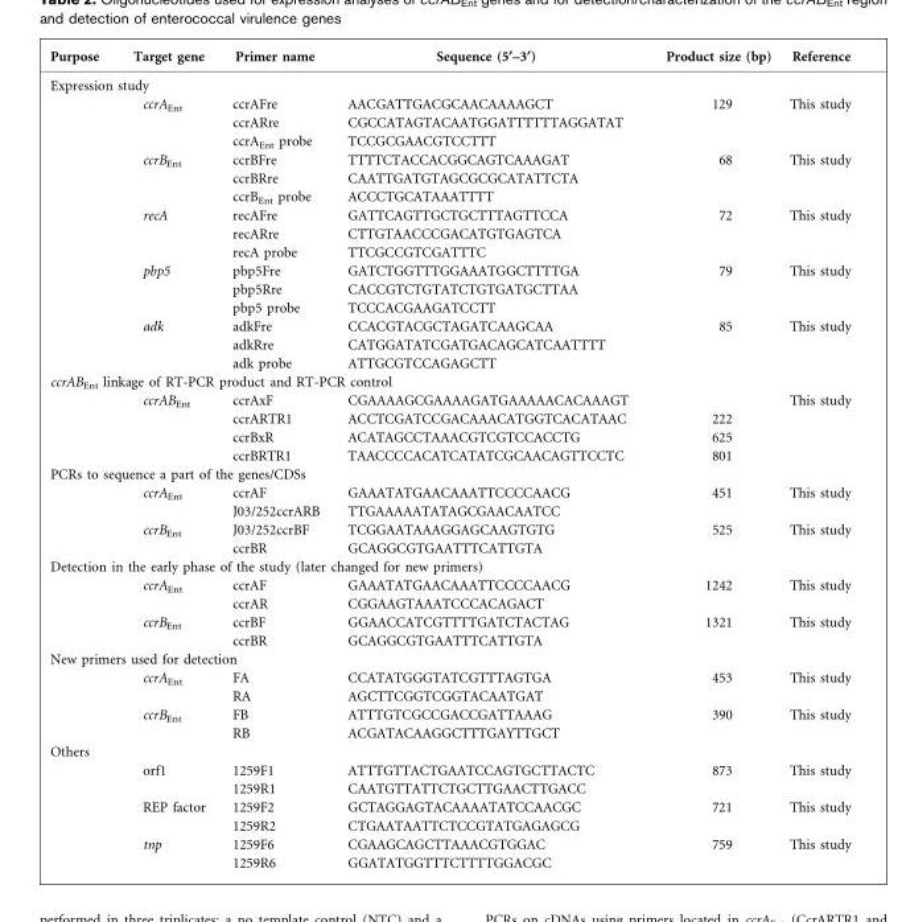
<table><thead><tr><td>Purpose</td><td>Target gene</td><td>Primer name</td><td>Sequence (5§–3§)</td><td>Product size (bp)</td><td>Reference</td></tr></thead><tbody><tr><td colspan="6">Expression study</td></tr><tr><td></td><td>ccrA<sub>Ent</sub></td><td>ccrAFre</td><td>AACGATTGACGCAACAAAAGCT</td><td>129</td><td>This study</td></tr><tr><td></td><td></td><td>ccrARre</td><td>CGCCATAGTACAATGGATTTTTTAGGATAT</td><td></td><td></td></tr><tr><td></td><td></td><td>ccrA<sub>Ent</sub> probe</td><td>TCCGCGAACGTCCTTT</td><td></td><td></td></tr><tr><td></td><td>ccrB<sub>Ent</sub></td><td>ccrBFre</td><td>TTTTCTACCACGGCAGTCAAAGAT</td><td>68</td><td>This study</td></tr><tr><td></td><td></td><td>ccrBRre</td><td>CAATTGATGTAGCGCGCATATTCTA</td><td></td><td></td></tr><tr><td></td><td></td><td>ccrB<sub>Ent</sub> probe</td><td>ACCCTGCATAAATTTT</td><td></td><td></td></tr><tr><td></td><td>recA</td><td>recAFre</td><td>GATTCAGTTGCTGCTTTAGTTCCA</td><td>72</td><td>This study</td></tr><tr><td></td><td></td><td>recARre</td><td>CTTGTAACCCGACATGTGAGTCA</td><td></td><td></td></tr><tr><td></td><td></td><td>recA probe</td><td>TTCGCCGTCGATTTC</td><td></td><td></td></tr><tr><td></td><td>pbp5</td><td>pbp5Fre</td><td>GATCTGGTTTGGAAATGGCTTTTGA</td><td>79</td><td>This study</td></tr><tr><td></td><td></td><td>pbp5Rre</td><td>CACCGTCTGTATCTGTGATGCTTAA</td><td></td><td></td></tr><tr><td></td><td></td><td>pbp5 probe</td><td>TCCCACGAAGATCCTT</td><td></td><td></td></tr><tr><td></td><td>adk</td><td>adkFre</td><td>CCACGTACGCTAGATCAAGCAA</td><td>85</td><td>This study</td></tr><tr><td></td><td></td><td>adkRre</td><td>CATGGATATCGATGACAGCATCAATTTT</td><td></td><td></td></tr><tr><td></td><td></td><td>adk probe</td><td>ATTGCGTCCAGAGCTT</td><td></td><td></td></tr><tr><td colspan="6">ccrAB<sub>Ent</sub> linkage of RT-PCR product and RT-PCR control</td></tr><tr><td></td><td>ccrAB<sub>Ent</sub></td><td>ccrAxF</td><td>CGAAAAGCGAAAAGATGAAAAACACAAAGT</td><td></td><td>This study</td></tr><tr><td></td><td></td><td>ccrARTR1</td><td>ACCTCGATCCGACAAACATGGTCACATAAC</td><td>222</td><td></td></tr><tr><td></td><td></td><td>ccrBxR</td><td>ACATAGCCTAAACGTCGTCCACCTG</td><td>625</td><td></td></tr><tr><td></td><td></td><td>ccrBRTR1</td><td>TAACCCCACATCATATCGCAACAGTTCCTC</td><td>801</td><td></td></tr><tr><td colspan="6">PCRs to sequence a part of the genes/CDSs</td></tr><tr><td></td><td>ccrA<sub>Ent</sub></td><td>ccrAF</td><td>GAAATATGAACAAATTCCCCAACG</td><td>451</td><td>This study</td></tr><tr><td></td><td></td><td>J03/252ccrARB</td><td>TTGAAAAATATAGCGAACAATCC</td><td></td><td></td></tr><tr><td></td><td>ccrB<sub>Ent</sub></td><td>J03/252ccrBF</td><td>TCGGAATAAAGGAGCAAGTGTG</td><td>525</td><td>This study</td></tr><tr><td></td><td></td><td>ccrBR</td><td>GCAGGCGTGAATTTCATTGTA</td><td></td><td></td></tr><tr><td colspan="6">Detection in the early phase of the study (later changed for new primers)</td></tr><tr><td></td><td>ccrA<sub>Ent</sub></td><td>ccrAF</td><td>GAAATATGAACAAATTCCCCAACG</td><td>1242</td><td>This study</td></tr><tr><td></td><td></td><td>ccrAR</td><td>CGGAAGTAAATCCCACAGACT</td><td></td><td></td></tr><tr><td></td><td>ccrB<sub>Ent</sub></td><td>ccrBF</td><td>GGAACCATCGTTTTGATCTACTAG</td><td>1321</td><td>This study</td></tr><tr><td></td><td></td><td>ccrBR</td><td>GCAGGCGTGAATTTCATTGTA</td><td></td><td></td></tr><tr><td colspan="6">New primers used for detection</td></tr><tr><td></td><td>ccrA<sub>Ent</sub></td><td>FA</td><td>CCATATGGGTATCGTTTAGTGA</td><td>453</td><td>This study</td></tr><tr><td></td><td></td><td>RA</td><td>AGCTTCGGTCGGTACAATGAT</td><td></td><td></td></tr><tr><td></td><td>ccrB<sub>Ent</sub></td><td>FB</td><td>ATTTGTCGCCGACCGATTAAAG</td><td>390</td><td>This study</td></tr><tr><td></td><td></td><td>RB</td><td>ACGATACAAGGCTTTGAYTTGCT</td><td></td><td></td></tr><tr><td colspan="6">Others</td></tr><tr><td></td><td>orf1</td><td>1259F1</td><td>ATTTGTTACTGAATCCAGTGCTTACTC</td><td>873</td><td>This study</td></tr><tr><td></td><td></td><td>1259R1</td><td>CAATGTTATTCTGCTTGAACTTGACC</td><td></td><td></td></tr><tr><td></td><td>REP factor</td><td>1259F2</td><td>GCTAGGAGTACAAAATATCCAACGC</td><td>721</td><td>This study</td></tr><tr><td></td><td></td><td>1259R2</td><td>CTGAATAATTCTCCGTATGAGAGCG</td><td></td><td></td></tr><tr><td></td><td>tnp</td><td>1259F6</td><td>CGAAGCAGCTTAAACGTGGAC</td><td>759</td><td>This study</td></tr><tr><td></td><td></td><td>1259R6</td><td>GGATATGGTTTCTTTTGGACGC</td><td></td><td></td></tr></tbody></table>